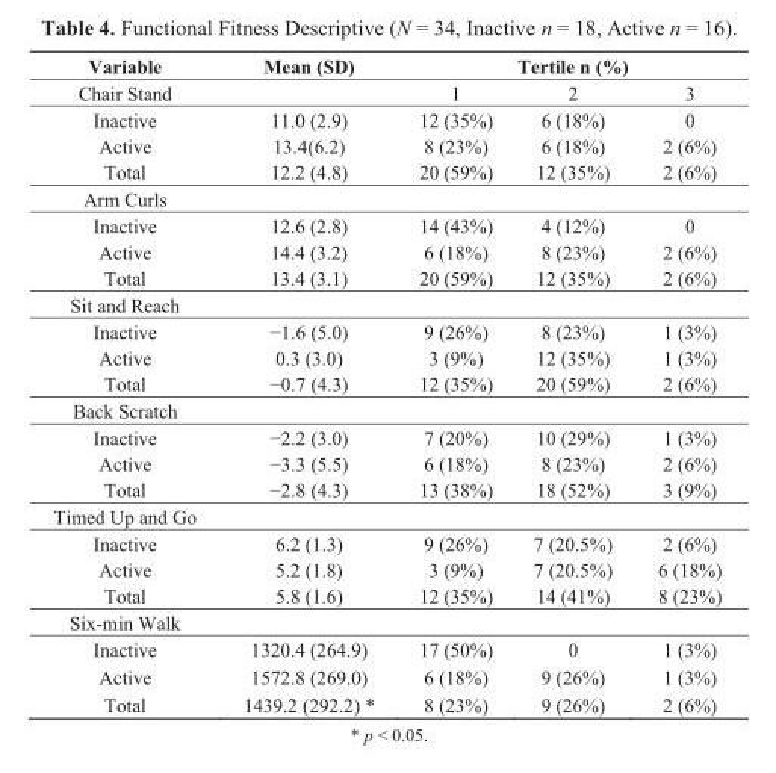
<table><thead><tr><td rowspan="2">Variable Chair Stand</td><td rowspan="2">Mean (SD)</td><td colspan="3">Tertile n (%)</td></tr><tr><td>1</td><td>2</td><td>3</td></tr></thead><tbody><tr><td>Inactive</td><td>11.0 (2.9)</td><td>12 (35%)</td><td>6 (18%)</td><td>0</td></tr><tr><td>Active</td><td>13.4(6.2)</td><td>8 (23%)</td><td>6 (18%)</td><td>2 (6%)</td></tr><tr><td>Total</td><td>12.2 (4.8)</td><td>20 (59%)</td><td>12 (35%)</td><td>2 (6%)</td></tr><tr><td colspan="5">Arm Curls</td></tr><tr><td>Inactive</td><td>12.6 (2.8)</td><td>14 (43%)</td><td>4 (12%)</td><td>0</td></tr><tr><td>Active</td><td>14.4 (3.2)</td><td>6 (18%)</td><td>8 (23%)</td><td>2 (6%)</td></tr><tr><td>Total</td><td>13.4 (3.1)</td><td>20 (59%)</td><td>12 (35%)</td><td>2 (6%)</td></tr><tr><td colspan="5">Sit and Reach</td></tr><tr><td>Inactive</td><td>−1.6 (5.0)</td><td>9 (26%)</td><td>8 (23%)</td><td>1 (3%)</td></tr><tr><td>Active</td><td>0.3 (3.0)</td><td>3 (9%)</td><td>12 (35%)</td><td>1 (3%)</td></tr><tr><td>Total</td><td>−0.7 (4.3)</td><td>12 (35%)</td><td>20 (59%)</td><td>2 (6%)</td></tr><tr><td colspan="5">Back Scratch</td></tr><tr><td>Inactive</td><td>−2.2 (3.0)</td><td>7 (20%)</td><td>10 (29%)</td><td>1 (3%)</td></tr><tr><td>Active</td><td>−3.3 (5.5)</td><td>6 (18%)</td><td>8 (23%)</td><td>2 (6%)</td></tr><tr><td>Total</td><td>−2.8 (4.3)</td><td>13 (38%)</td><td>18 (52%)</td><td>3 (9%)</td></tr><tr><td colspan="5">Timed Up and Go</td></tr><tr><td>Inactive</td><td>6.2 (1.3)</td><td>9 (26%)</td><td>7 (20.5%)</td><td>2 (6%)</td></tr><tr><td>Active</td><td>5.2 (1.8)</td><td>3 (9%)</td><td>7 (20.5%)</td><td>6 (18%)</td></tr><tr><td>Total</td><td>5.8 (1.6)</td><td>12 (35%)</td><td>14 (41%)</td><td>8 (23%)</td></tr><tr><td colspan="5">Six-min Walk</td></tr><tr><td>Inactive</td><td>1320.4 (264.9)</td><td>17 (50%)</td><td>0</td><td>1 (3%)</td></tr><tr><td>Active</td><td>1572.8 (269.0)</td><td>6 (18%)</td><td>9 (26%)</td><td>1 (3%)</td></tr><tr><td>Total</td><td>1439.2 (292.2) *</td><td>8 (23%)</td><td>9 (26%)</td><td>2 (6%)</td></tr></tbody></table>